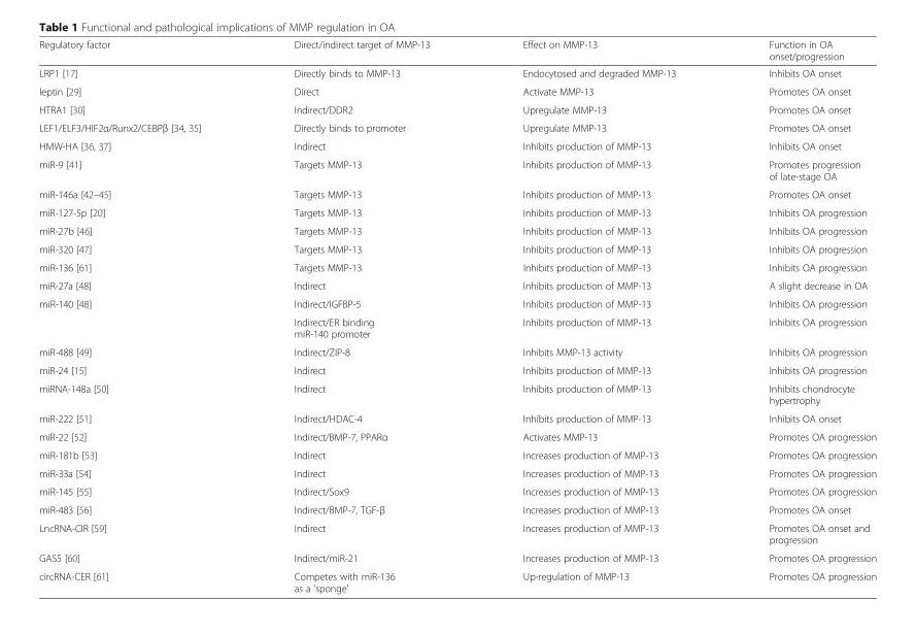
<table><thead><tr><td>Regulatory factor</td><td>Direct/indirect target of MMP-13</td><td>Effect on MMP-13</td><td>Function in OA onset/progression</td></tr></thead><tbody><tr><td>LRP1 [17]</td><td>Directly binds to MMP-13</td><td>Endocytosed and degraded MMP-13</td><td>Inhibits OA onset</td></tr><tr><td>leptin [29]</td><td>Direct</td><td>Activate MMP-13</td><td>Promotes OA onset</td></tr><tr><td>HTRA1 [30]</td><td>Indirect/DDR2</td><td>Upregulate MMP-13</td><td>Promotes OA onset</td></tr><tr><td>LEF1/ELF3/HIF2α/Runx2/CEBPβ [34, 35]</td><td>Directly binds to promoter</td><td>Upregulate MMP-13</td><td>Promotes OA onset</td></tr><tr><td>HMW-HA [36, 37]</td><td>Indirect</td><td>Inhibits production of MMP-13</td><td>Inhibits OA onset</td></tr><tr><td>miR-9 [41]</td><td>Targets MMP-13</td><td>Inhibits production of MMP-13</td><td>Promotes progression of late-stage OA</td></tr><tr><td>miR-146a [42–45]</td><td>Targets MMP-13</td><td>Inhibits production of MMP-13</td><td>Promotes OA onset</td></tr><tr><td>miR-127-5p [20]</td><td>Targets MMP-13</td><td>Inhibits production of MMP-13</td><td>Inhibits OA progression</td></tr><tr><td>miR-27b [46]</td><td>Targets MMP-13</td><td>Inhibits production of MMP-13</td><td>Inhibits OA progression</td></tr><tr><td>miR-320 [47]</td><td>Targets MMP-13</td><td>Inhibits production of MMP-13</td><td>Inhibits OA progression</td></tr><tr><td>miR-136 [61]</td><td>Targets MMP-13</td><td>Inhibits production of MMP-13</td><td>Inhibits OA progression</td></tr><tr><td>miR-27a [48]</td><td>Indirect</td><td>Inhibits production of MMP-13</td><td>A slight decrease in OA</td></tr><tr><td rowspan="2">miR-140 [48]</td><td>Indirect/IGFBP-5</td><td>Inhibits production of MMP-13</td><td>Inhibits OA progression</td></tr><tr><td>Indirect/ER binding miR-140 promoter</td><td>Inhibits production of MMP-13</td><td>Inhibits OA progression</td></tr><tr><td>miR-488 [49]</td><td>Indirect/ZIP-8</td><td>Inhibits MMP-13 activity</td><td>Inhibits OA progression</td></tr><tr><td>miR-24 [15]</td><td>Indirect</td><td>Inhibits production of MMP-13</td><td>Inhibits OA progression</td></tr><tr><td>miRNA-148a [50]</td><td>Indirect</td><td>Inhibits production of MMP-13</td><td>Inhibits chondrocyte hypertrophy</td></tr><tr><td>miR-222 [51]</td><td>Indirect/HDAC-4</td><td>Inhibits production of MMP-13</td><td>Inhibits OA onset</td></tr><tr><td>miR-22 [52]</td><td>Indirect/BMP-7, PPARα</td><td>Activates MMP-13</td><td>Promotes OA progression</td></tr><tr><td>miR-181b [53]</td><td>Indirect</td><td>Increases production of MMP-13</td><td>Promotes OA progression</td></tr><tr><td>miR-33a [54]</td><td>Indirect</td><td>Increases production of MMP-13</td><td>Promotes OA progression</td></tr><tr><td>miR-145 [55]</td><td>Indirect/Sox9</td><td>Increases production of MMP-13</td><td>Promotes OA progression</td></tr><tr><td>miR-483 [56]</td><td>Indirect/BMP-7, TGF-β</td><td>Increases production of MMP-13</td><td>Promotes OA onset</td></tr><tr><td>LncRNA-CIR [59]</td><td>Indirect</td><td>Increases production of MMP-13</td><td>Promotes OA onset and progression</td></tr><tr><td>GAS5 [60]</td><td>Indirect/miR-21</td><td>Increases production of MMP-13</td><td>Promotes OA progression</td></tr><tr><td>circRNA-CER [61]</td><td>Competes with miR-136 as a ‘sponge’</td><td>Up-regulation of MMP-13</td><td>Promotes OA progression</td></tr></tbody></table>